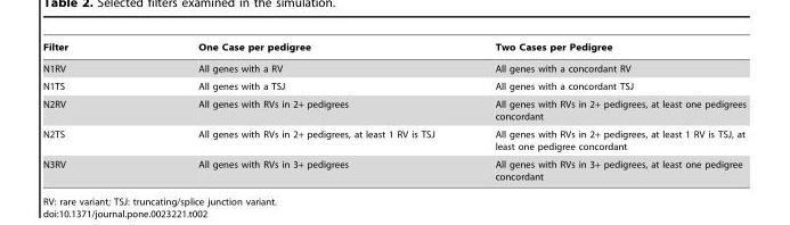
<table><thead><tr><td>Filter</td><td>One Case per pedigree</td><td>Two Cases per Pedigree</td></tr></thead><tbody><tr><td>N1RV</td><td>All genes with a RV</td><td>All genes with a concordant RV</td></tr><tr><td>N1TS</td><td>All genes with a TSJ</td><td>All genes with a concordant TSJ</td></tr><tr><td>N2RV</td><td>All genes with RVs in 2+ pedigrees</td><td>All genes with RVs in 2+ pedigrees, at least one pedigrees concordant</td></tr><tr><td>N2TS</td><td>All genes with RVs in 2+ pedigrees, at least 1 RV is TSJ</td><td>All genes with RVs in 2+ pedigrees, at least 1 RV is TSJ, at least one pedigree concordant</td></tr><tr><td>N3RV</td><td>All genes with RVs in 3+ pedigrees</td><td>All genes with RVs in 3+ pedigrees, at least one pedigree concordant</td></tr></tbody></table>